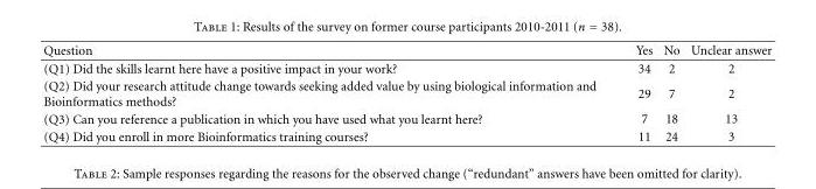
<table><thead><tr><td>Question</td><td>Yes</td><td>No</td><td>Unclear answer</td></tr></thead><tbody><tr><td>(Q1) Did the skills learnt here have a positive impact in your work?</td><td>34</td><td>2</td><td>2</td></tr><tr><td>(Q2) Did your research attitude change towards seeking added value by using biological information and Bioinformatics methods?</td><td>29</td><td>7</td><td>2</td></tr><tr><td>(Q3) Can you reference a publication in which you have used what you learnt here?</td><td>7</td><td>18</td><td>13</td></tr><tr><td>(Q4) Did you enroll in more Bioinformatics training courses?</td><td>11</td><td>24</td><td>3</td></tr></tbody></table>